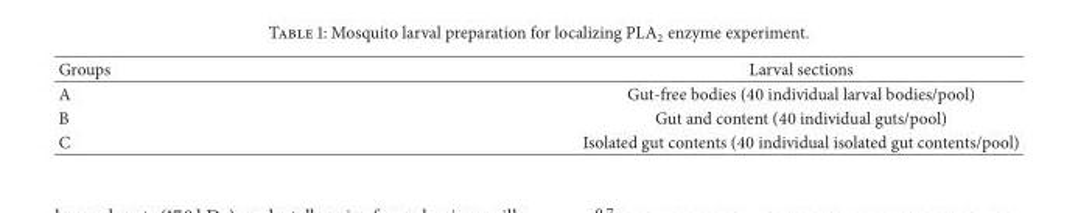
<table><thead><tr><td>Groups</td><td>Larval sections</td></tr></thead><tbody><tr><td>A</td><td>Gut-free bodies (40 individual larval bodies/pool)</td></tr><tr><td>B</td><td>Gut and content (40 individual guts/pool)</td></tr><tr><td>C</td><td>Isolated gut contents (40 individual isolated gut contents/pool)</td></tr></tbody></table>